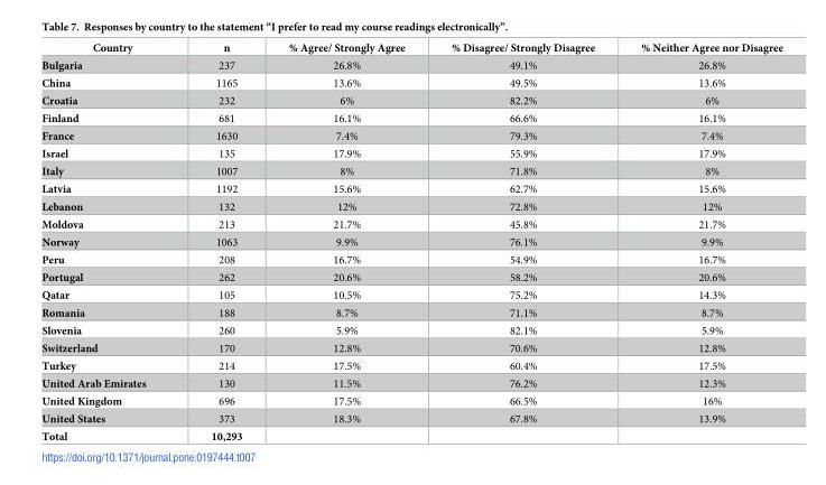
<table><thead><tr><td>Country</td><td>n</td><td>% Agree/ Strongly Agree</td><td>% Disagree/ Strongly Disagree</td><td>% Neither Agree nor Disagree</td></tr></thead><tbody><tr><td>Bulgaria</td><td>237</td><td>26.8%</td><td>49.1%</td><td>26.8%</td></tr><tr><td>China</td><td>1165</td><td>13.6%</td><td>49.5%</td><td>13.6%</td></tr><tr><td>Croatia</td><td>232</td><td>6%</td><td>82.2%</td><td>6%</td></tr><tr><td>Finland</td><td>681</td><td>16.1%</td><td>66.6%</td><td>16.1%</td></tr><tr><td>France</td><td>1630</td><td>7.4%</td><td>79.3%</td><td>7.4%</td></tr><tr><td>Israel</td><td>135</td><td>17.9%</td><td>55.9%</td><td>17.9%</td></tr><tr><td>Italy</td><td>1007</td><td>8%</td><td>71.8%</td><td>8%</td></tr><tr><td>Latvia</td><td>1192</td><td>15.6%</td><td>62.7%</td><td>15.6%</td></tr><tr><td>Lebanon</td><td>132</td><td>12%</td><td>72.8%</td><td>12%</td></tr><tr><td>Moldova</td><td>213</td><td>21.7%</td><td>45.8%</td><td>21.7%</td></tr><tr><td>Norway</td><td>1063</td><td>9.9%</td><td>76.1%</td><td>9.9%</td></tr><tr><td>Peru</td><td>208</td><td>16.7%</td><td>54.9%</td><td>16.7%</td></tr><tr><td>Portugal</td><td>262</td><td>20.6%</td><td>58.2%</td><td>20.6%</td></tr><tr><td>Qatar</td><td>105</td><td>10.5%</td><td>75.2%</td><td>14.3%</td></tr><tr><td>Romania</td><td>188</td><td>8.7%</td><td>71.1%</td><td>8.7%</td></tr><tr><td>Slovenia</td><td>260</td><td>5.9%</td><td>82.1%</td><td>5.9%</td></tr><tr><td>Switzerland</td><td>170</td><td>12.8%</td><td>70.6%</td><td>12.8%</td></tr><tr><td>Turkey</td><td>214</td><td>17.5%</td><td>60.4%</td><td>17.5%</td></tr><tr><td>United Arab Emirates</td><td>130</td><td>11.5%</td><td>76.2%</td><td>12.3%</td></tr><tr><td>United Kingdom</td><td>696</td><td>17.5%</td><td>66.5%</td><td>16%</td></tr><tr><td>United States</td><td>373</td><td>18.3%</td><td>67.8%</td><td>13.9%</td></tr><tr><td>Total</td><td>10,293</td><td></td><td></td><td></td></tr></tbody></table>